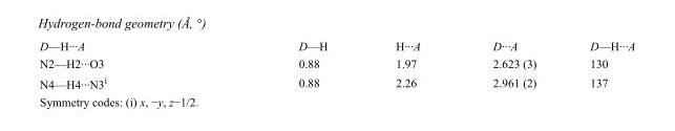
<table><tbody><tr><td>D—H···A</td><td>D—H</td><td>H···A</td><td>D···A</td><td>D—H···A</td></tr><tr><td>N2—H2···O3</td><td>0.88</td><td>1.97</td><td>2.623 (3)</td><td>130</td></tr><tr><td>N4—H4···N3<sup>i</sup></td><td>0.88</td><td>2.26</td><td>2.961 (2)</td><td>137</td></tr></tbody></table>